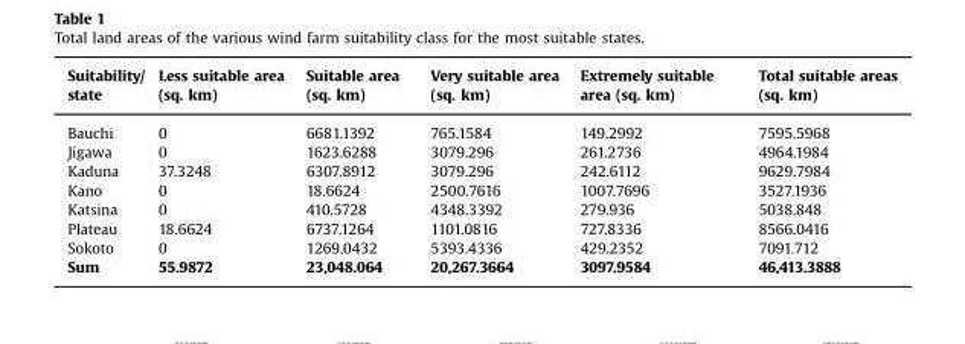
<table><thead><tr><td>Suitability/ state</td><td>Less suitable area (sq. km)</td><td>Suitable area (sq. km)</td><td>Very suitable area (sq. km)</td><td>Extremely suitable area (sq. km)</td><td>Total suitable areas (sq. km)</td></tr></thead><tbody><tr><td>Bauchi</td><td>0</td><td>6681.1392</td><td>765.1584</td><td>149.2992</td><td>7595.5968</td></tr><tr><td>Jigawa</td><td>0</td><td>1623.6288</td><td>3079.296</td><td>261.2736</td><td>4964.1984</td></tr><tr><td>Kaduna</td><td>37.3248</td><td>6307.8912</td><td>3079.296</td><td>242.6112</td><td>9629.7984</td></tr><tr><td>Kano</td><td>0</td><td>18.6624</td><td>2500.7616</td><td>1007.7696</td><td>3527.1936</td></tr><tr><td>Katsina</td><td>0</td><td>410.5728</td><td>4348.3392</td><td>279.936</td><td>5038.848</td></tr><tr><td>Plateau</td><td>18.6624</td><td>6737.1264</td><td>1101.0816</td><td>727.8336</td><td>8566.0416</td></tr><tr><td>Sokoto</td><td>0</td><td>1269.0432</td><td>5393.4336</td><td>429.2352</td><td>7091.712</td></tr><tr><td>Sum</td><td>55.9872</td><td>23,048.064</td><td>20,267.3664</td><td>3097.9584</td><td>46,413.3888</td></tr></tbody></table>